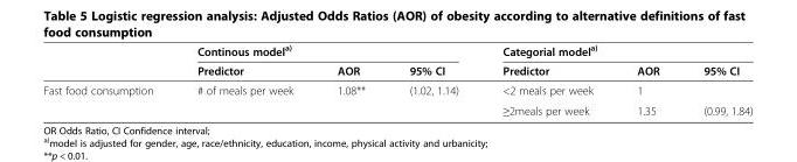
<table><thead><tr><td rowspan="2"></td><td colspan="3">Continous model<sup>a)</sup></td><td colspan="3">Categorial model<sup>a)</sup></td></tr><tr><td>Predictor</td><td>AOR</td><td>95% CI</td><td>Predictor</td><td>AOR</td><td>95% CI</td></tr></thead><tbody><tr><td rowspan="2">Fast food consumption</td><td rowspan="2"># of meals per week</td><td rowspan="2">1.08**</td><td rowspan="2">(1.02, 1.14)</td><td>&lt;2 meals per week</td><td>1</td><td></td></tr><tr><td>≥2meals per week</td><td>1.35</td><td>(0.99, 1.84)</td></tr></tbody></table>